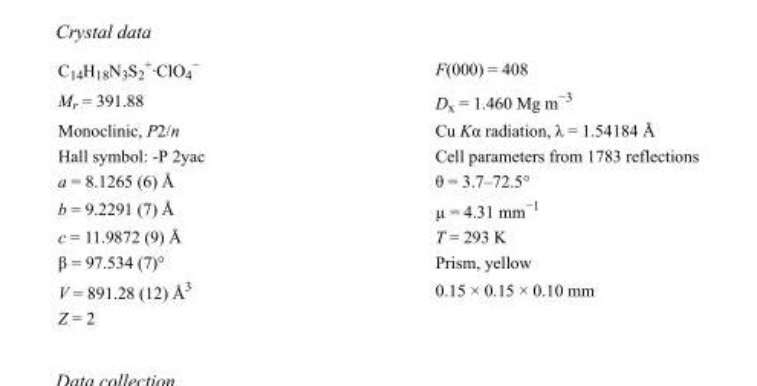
<table><tbody><tr><td>C<sub>14</sub>H<sub>18</sub>N<sub>3</sub>S<sub>2</sub> <sup>+</sup>·ClO<sub>4</sub> <sup>−</sup></td><td>F(000) = 408</td></tr><tr><td>M<sub>r</sub> = 391.88</td><td>D<sub>x</sub> = 1.460 Mg m<sup>−3</sup></td></tr><tr><td>Monoclinic, P2/n</td><td>Cu Kα radiation, λ = 1.54184 Å</td></tr><tr><td>Hall symbol: -P 2yac</td><td>Cell parameters from 1783 reflections</td></tr><tr><td>a = 8.1265 (6) Å</td><td>θ = 3.7–72.5°</td></tr><tr><td>b = 9.2291 (7) Å</td><td>µ = 4.31 mm<sup>−1</sup></td></tr><tr><td>c = 11.9872 (9) Å</td><td>T = 293 K</td></tr><tr><td>β = 97.534 (7)°</td><td>Prism, yellow</td></tr><tr><td>V = 891.28 (12) Å<sup>3</sup></td><td>0.15 × 0.15 × 0.10 mm</td></tr><tr><td>Z = 2</td><td></td></tr></tbody></table>